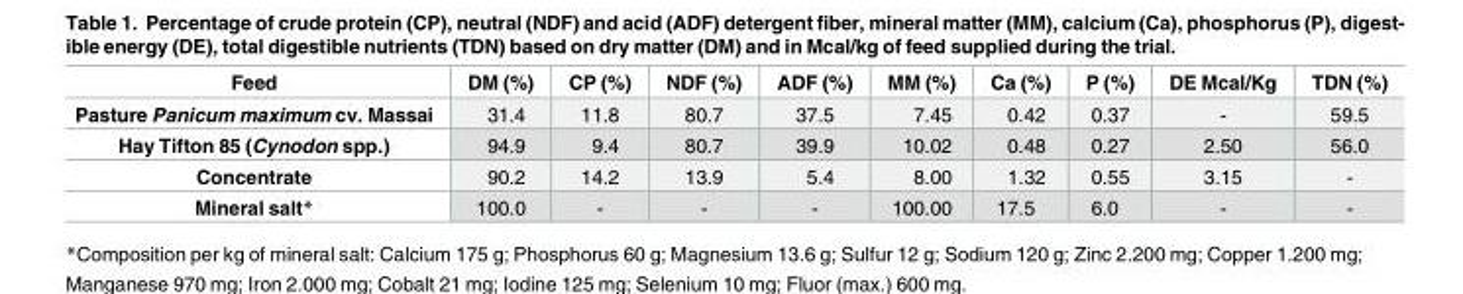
<table><thead><tr><td>Feed</td><td>DM (%)</td><td>CP (%)</td><td>NDF (%)</td><td>ADF (%)</td><td>MM (%)</td><td>Ca (%)</td><td>P (%)</td><td>DE Mcal/Kg</td><td>TDN (%)</td></tr></thead><tbody><tr><td>Pasture Panicum maximum cv. Massai</td><td>31.4</td><td>11.8</td><td>80.7</td><td>37.5</td><td>7.45</td><td>0.42</td><td>0.37</td><td>-</td><td>59.5</td></tr><tr><td>Hay Tifton 85 (Cynodon spp.)</td><td>94.9</td><td>9.4</td><td>80.7</td><td>39.9</td><td>10.02</td><td>0.48</td><td>0.27</td><td>2.50</td><td>56.0</td></tr><tr><td>Concentrate</td><td>90.2</td><td>14.2</td><td>13.9</td><td>5.4</td><td>8.00</td><td>1.32</td><td>0.55</td><td>3.15</td><td>-</td></tr><tr><td>Mineral salt*</td><td>100.0</td><td>-</td><td>-</td><td>-</td><td>100.00</td><td>17.5</td><td>6.0</td><td>-</td><td>-</td></tr></tbody></table>